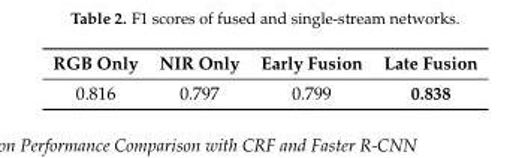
<table><thead><tr><td>RGB Only</td><td>NIR Only</td><td>Early Fusion</td><td>Late Fusion</td></tr></thead><tbody><tr><td>0.816</td><td>0.797</td><td>0.799</td><td>0.838</td></tr></tbody></table>